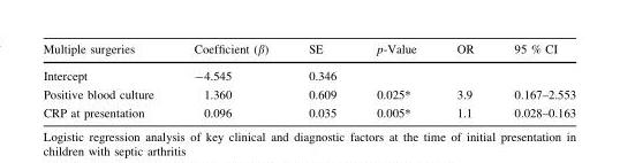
<table><thead><tr><td>Multiple surgeries</td><td>Coefficient (β)</td><td>SE</td><td>p-Value</td><td>OR</td><td>95 % CI</td></tr></thead><tbody><tr><td>Intercept</td><td>-4.545</td><td>0.346</td><td></td><td></td><td></td></tr><tr><td>Positive blood culture</td><td>1.360</td><td>0.609</td><td>0.025*</td><td>3.9</td><td>0.167–2.553</td></tr><tr><td>CRP at presentation</td><td>0.096</td><td>0.035</td><td>0.005*</td><td>1.1</td><td>0.028–0.163</td></tr></tbody></table>